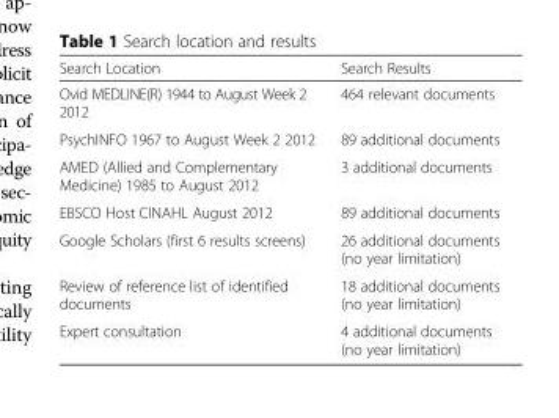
<table><thead><tr><td>Search Location</td><td>Search Results</td></tr></thead><tbody><tr><td>Ovid MEDLINE(R) 1944 to August Week 2 2012</td><td>464 relevant documents</td></tr><tr><td>PsychINFO 1967 to August Week 2 2012</td><td>89 additional documents</td></tr><tr><td>AMED (Allied and Complementary Medicine) 1985 to August 2012</td><td>3 additional documents</td></tr><tr><td>EBSCO Host CINAHL August 2012</td><td>89 additional documents</td></tr><tr><td>Google Scholars (first 6 results screens)</td><td>26 additional documents (no year limitation)</td></tr><tr><td>Review of reference list of identified documents</td><td>18 additional documents (no year limitation)</td></tr><tr><td>Expert consultation</td><td>4 additional documents (no year limitation)</td></tr></tbody></table>